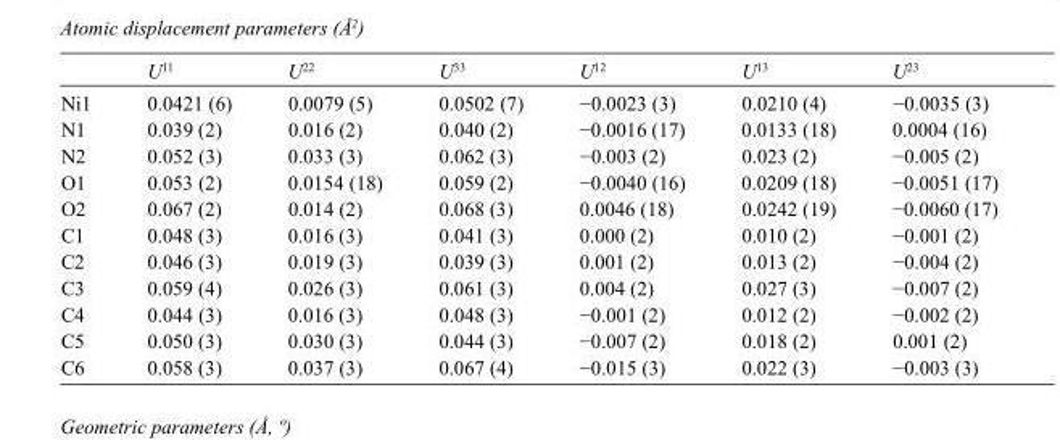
<table><thead><tr><td></td><td>U<sup>11</sup></td><td>U<sup>22</sup></td><td>U<sup>33</sup></td><td>U<sup>12</sup></td><td>U<sup>13</sup></td><td>U<sup>23</sup></td></tr></thead><tbody><tr><td>Ni1</td><td>0.0421 (6)</td><td>0.0079 (5)</td><td>0.0502 (7)</td><td>−0.0023 (3)</td><td>0.0210 (4)</td><td>−0.0035 (3)</td></tr><tr><td>N1</td><td>0.039 (2)</td><td>0.016 (2)</td><td>0.040 (2)</td><td>−0.0016 (17)</td><td>0.0133 (18)</td><td>0.0004 (16)</td></tr><tr><td>N2</td><td>0.052 (3)</td><td>0.033 (3)</td><td>0.062 (3)</td><td>−0.003 (2)</td><td>0.023 (2)</td><td>−0.005 (2)</td></tr><tr><td>O1</td><td>0.053 (2)</td><td>0.0154 (18)</td><td>0.059 (2)</td><td>−0.0040 (16)</td><td>0.0209 (18)</td><td>−0.0051 (17)</td></tr><tr><td>O2</td><td>0.067 (2)</td><td>0.014 (2)</td><td>0.068 (3)</td><td>0.0046 (18)</td><td>0.0242 (19)</td><td>−0.0060 (17)</td></tr><tr><td>C1</td><td>0.048 (3)</td><td>0.016 (3)</td><td>0.041 (3)</td><td>0.000 (2)</td><td>0.010 (2)</td><td>−0.001 (2)</td></tr><tr><td>C2</td><td>0.046 (3)</td><td>0.019 (3)</td><td>0.039 (3)</td><td>0.001 (2)</td><td>0.013 (2)</td><td>−0.004 (2)</td></tr><tr><td>C3</td><td>0.059 (4)</td><td>0.026 (3)</td><td>0.061 (3)</td><td>0.004 (2)</td><td>0.027 (3)</td><td>−0.007 (2)</td></tr><tr><td>C4</td><td>0.044 (3)</td><td>0.016 (3)</td><td>0.048 (3)</td><td>−0.001 (2)</td><td>0.012 (2)</td><td>−0.002 (2)</td></tr><tr><td>C5</td><td>0.050 (3)</td><td>0.030 (3)</td><td>0.044 (3)</td><td>−0.007 (2)</td><td>0.018 (2)</td><td>0.001 (2)</td></tr><tr><td>C6</td><td>0.058 (3)</td><td>0.037 (3)</td><td>0.067 (4)</td><td>−0.015 (3)</td><td>0.022 (3)</td><td>−0.003 (3)</td></tr></tbody></table>